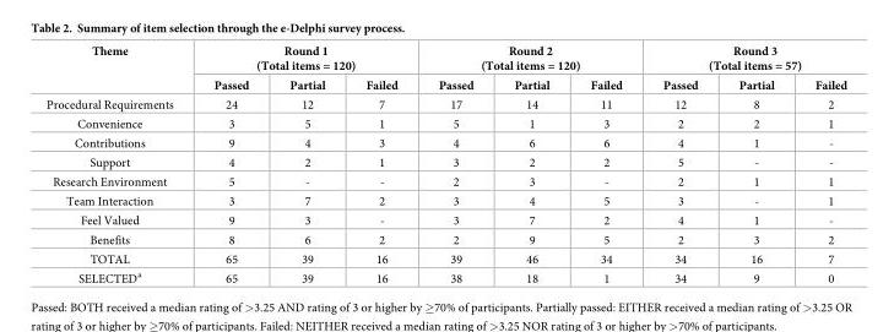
<table><thead><tr><td rowspan="2">Theme</td><td colspan="3">Round 1 (Total items = 120)</td><td colspan="3">Round 2 (Total items = 120)</td><td colspan="3">Round 3 (Total items = 57)</td></tr><tr><td>Passed</td><td>Partial</td><td>Failed</td><td>Passed</td><td>Partial</td><td>Failed</td><td>Passed</td><td>Partial</td><td>Failed</td></tr></thead><tbody><tr><td>Procedural Requirements</td><td>24</td><td>12</td><td>7</td><td>17</td><td>14</td><td>11</td><td>12</td><td>8</td><td>2</td></tr><tr><td>Convenience</td><td>3</td><td>5</td><td>1</td><td>5</td><td>1</td><td>3</td><td>2</td><td>2</td><td>1</td></tr><tr><td>Contributions</td><td>9</td><td>4</td><td>3</td><td>4</td><td>6</td><td>6</td><td>4</td><td>1</td><td>-</td></tr><tr><td>Support</td><td>4</td><td>2</td><td>1</td><td>3</td><td>2</td><td>2</td><td>5</td><td>-</td><td>-</td></tr><tr><td>Research Environment</td><td>5</td><td>-</td><td>-</td><td>2</td><td>3</td><td>-</td><td>2</td><td>1</td><td>1</td></tr><tr><td>Team Interaction</td><td>3</td><td>7</td><td>2</td><td>3</td><td>4</td><td>5</td><td>3</td><td>-</td><td>1</td></tr><tr><td>Feel Valued</td><td>9</td><td>3</td><td>-</td><td>3</td><td>7</td><td>2</td><td>4</td><td>1</td><td>-</td></tr><tr><td>Benefits</td><td>8</td><td>6</td><td>2</td><td>2</td><td>9</td><td>5</td><td>2</td><td>3</td><td>2</td></tr><tr><td>TOTAL</td><td>65</td><td>39</td><td>16</td><td>39</td><td>46</td><td>34</td><td>34</td><td>16</td><td>7</td></tr><tr><td>SELECTED<sup>a</sup></td><td>65</td><td>39</td><td>16</td><td>38</td><td>18</td><td>1</td><td>34</td><td>9</td><td>0</td></tr></tbody></table>